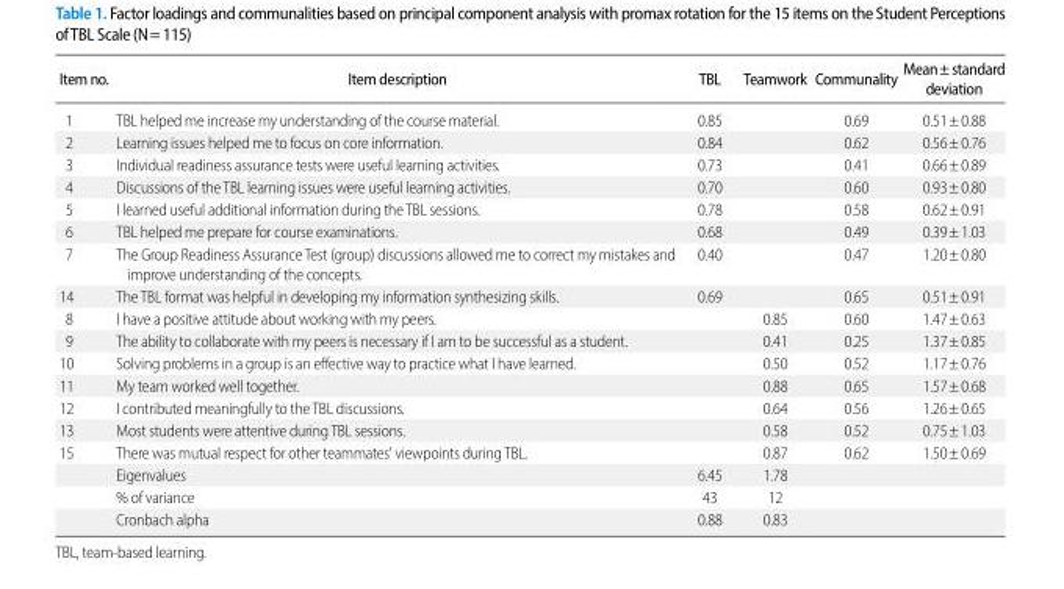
<table><thead><tr><td>Item no.</td><td>Item description</td><td>TBL</td><td>Teamwork</td><td>Communality</td><td>Mean±standard deviation</td></tr></thead><tbody><tr><td>1</td><td>TBL helped me increase my understanding of the course material.</td><td>0.85</td><td></td><td>0.69</td><td>0.51±0.88</td></tr><tr><td>2</td><td>Learning issues helped me to focus on core information.</td><td>0.84</td><td></td><td>0.62</td><td>0.56±0.76</td></tr><tr><td>3</td><td>Individual readiness assurance tests were useful learning activities.</td><td>0.73</td><td></td><td>0.41</td><td>0.66±0.89</td></tr><tr><td>4</td><td>Discussions of the TBL learning issues were useful learning activities.</td><td>0.70</td><td></td><td>0.60</td><td>0.93±0.80</td></tr><tr><td>5</td><td>I learned useful additional information during the TBL sessions.</td><td>0.78</td><td></td><td>0.58</td><td>0.62±0.91</td></tr><tr><td>6</td><td>TBL helped me prepare for course examinations.</td><td>0.68</td><td></td><td>0.49</td><td>0.39±1.03</td></tr><tr><td>7</td><td>The Group Readiness Assurance Test (group) discussions allowed me to correct my mistakes and improve understanding of the concepts.</td><td>0.40</td><td></td><td>0.47</td><td>1.20±0.80</td></tr><tr><td>14</td><td>The TBL format was helpful in developing my information synthesizing skills.</td><td>0.69</td><td></td><td>0.65</td><td>0.51±0.91</td></tr><tr><td>8</td><td>I have a positive attitude about working with my peers.</td><td></td><td>0.85</td><td>0.60</td><td>1.47±0.63</td></tr><tr><td>9</td><td>The ability to collaborate with my peers is necessary if I am to be successful as a student.</td><td></td><td>0.41</td><td>0.25</td><td>1.37±0.85</td></tr><tr><td>10</td><td>Solving problems in a group is an effective way to practice what I have learned.</td><td></td><td>0.50</td><td>0.52</td><td>1.17±0.76</td></tr><tr><td>11</td><td>My team worked well together.</td><td></td><td>0.88</td><td>0.65</td><td>1.57±0.68</td></tr><tr><td>12</td><td>I contributed meaningfully to the TBL discussions.</td><td></td><td>0.64</td><td>0.56</td><td>1.26±0.65</td></tr><tr><td>13</td><td>Most students were attentive during TBL sessions.</td><td></td><td>0.58</td><td>0.52</td><td>0.75±1.03</td></tr><tr><td rowspan="4">15</td><td>There was mutual respect for other teammates&#x27; viewpoints during TBL.</td><td></td><td>0.87</td><td>0.62</td><td>1.50±0.69</td></tr><tr><td>Eigenvalues</td><td>6.45</td><td>1.78</td><td></td><td></td></tr><tr><td>% of variance</td><td>43</td><td>12</td><td></td><td></td></tr><tr><td>Cronbach alpha</td><td>0.88</td><td>0.83</td><td></td><td></td></tr></tbody></table>